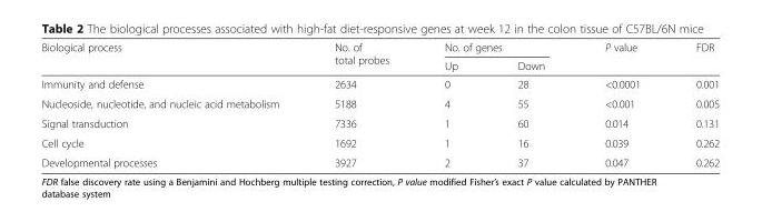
<table><thead><tr><td rowspan="2">Biological process</td><td rowspan="2">No. of total probes</td><td colspan="2">No. of genes</td><td rowspan="2">P value</td><td rowspan="2">FDR</td></tr><tr><td>Up</td><td>Down</td></tr></thead><tbody><tr><td>Immunity and defense</td><td>2634</td><td>0</td><td>28</td><td>&lt;0.0001</td><td>0.001</td></tr><tr><td>Nucleoside, nucleotide, and nucleic acid metabolism</td><td>5188</td><td>4</td><td>55</td><td>&lt;0.001</td><td>0.005</td></tr><tr><td>Signal transduction</td><td>7336</td><td>1</td><td>60</td><td>0.014</td><td>0.131</td></tr><tr><td>Cell cycle</td><td>1692</td><td>1</td><td>16</td><td>0.039</td><td>0.262</td></tr><tr><td>Developmental processes</td><td>3927</td><td>2</td><td>37</td><td>0.047</td><td>0.262</td></tr></tbody></table>